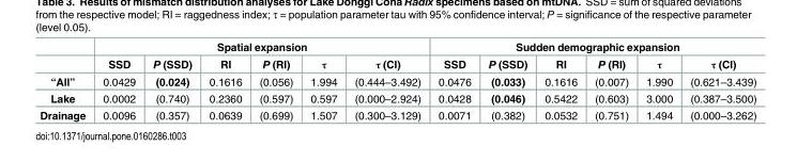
<table><thead><tr><td rowspan="2"></td><td colspan="6">Spatial expansion</td><td colspan="6">Sudden demographic expansion</td></tr><tr><td>SSD</td><td>P (SSD)</td><td>RI</td><td>P (RI)</td><td>τ</td><td>τ (CI)</td><td>SSD</td><td>P (SSD)</td><td>RI</td><td>P (RI)</td><td>τ</td><td>τ (CI)</td></tr></thead><tbody><tr><td>“All”</td><td>0.0429</td><td>(0.024)</td><td>0.1616</td><td>(0.056)</td><td>1.994</td><td>(0.444–3.492)</td><td>0.0476</td><td>(0.033)</td><td>0.1616</td><td>(0.007)</td><td>1.990</td><td>(0.621–3.439)</td></tr><tr><td>Lake</td><td>0.0002</td><td>(0.740)</td><td>0.2360</td><td>(0.597)</td><td>0.597</td><td>(0.000–2.924)</td><td>0.0428</td><td>(0.046)</td><td>0.5422</td><td>(0.603)</td><td>3.000</td><td>(0.387–3.500)</td></tr><tr><td>Drainage</td><td>0.0096</td><td>(0.357)</td><td>0.0639</td><td>(0.699)</td><td>1.507</td><td>(0.300–3.129)</td><td>0.0071</td><td>(0.382)</td><td>0.0532</td><td>(0.751)</td><td>1.494</td><td>(0.000–3.262)</td></tr></tbody></table>